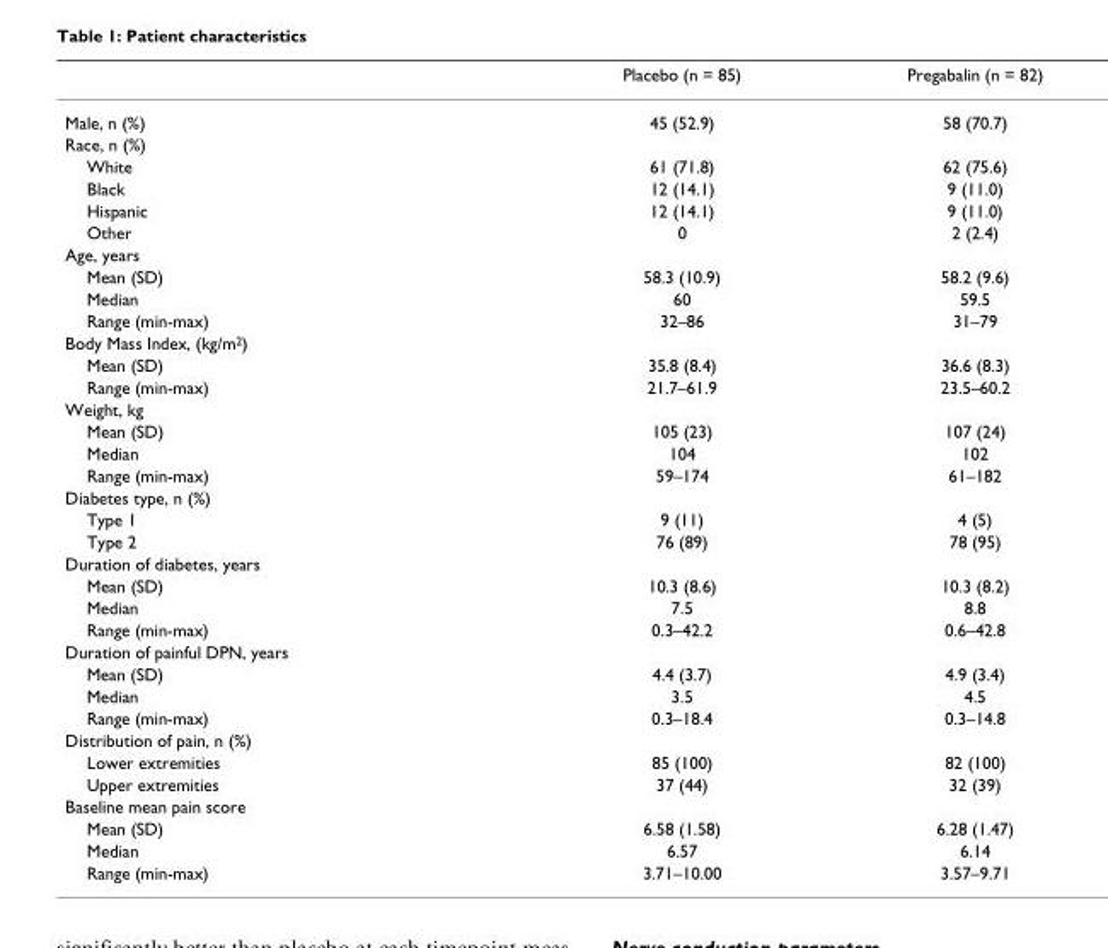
<table><thead><tr><td></td><td>Placebo (n = 85)</td><td>Pregabalin (n = 82)</td></tr></thead><tbody><tr><td>Male, n (%)</td><td>45 (52.9)</td><td>58 (70.7)</td></tr><tr><td colspan="3">Race, n (%)</td></tr><tr><td>White</td><td>61 (71.8)</td><td>62 (75.6)</td></tr><tr><td>Black</td><td>12 (14.1)</td><td>9 (11.0)</td></tr><tr><td>Hispanic</td><td>12 (14.1)</td><td>9 (11.0)</td></tr><tr><td>Other</td><td>0</td><td>2 (2.4)</td></tr><tr><td colspan="3">Age, years</td></tr><tr><td>Mean (SD)</td><td>58.3 (10.9)</td><td>58.2 (9.6)</td></tr><tr><td>Median</td><td>60</td><td>59.5</td></tr><tr><td>Range (min-max)</td><td>32–86</td><td>31–79</td></tr><tr><td colspan="3">Body Mass Index, (kg/m<sup>2</sup>)</td></tr><tr><td>Mean (SD)</td><td>35.8 (8.4)</td><td>36.6 (8.3)</td></tr><tr><td>Range (min-max)</td><td>21.7–61.9</td><td>23.5–60.2</td></tr><tr><td colspan="3">Weight, kg</td></tr><tr><td>Mean (SD)</td><td>105 (23)</td><td>107 (24)</td></tr><tr><td>Median</td><td>104</td><td>102</td></tr><tr><td>Range (min-max)</td><td>59–174</td><td>61–182</td></tr><tr><td colspan="3">Diabetes type, n (%)</td></tr><tr><td>Type 1</td><td>9 (11)</td><td>4 (5)</td></tr><tr><td>Type 2</td><td>76 (89)</td><td>78 (95)</td></tr><tr><td colspan="3">Duration of diabetes, years</td></tr><tr><td>Mean (SD)</td><td>10.3 (8.6)</td><td>10.3 (8.2)</td></tr><tr><td>Median</td><td>7.5</td><td>8.8</td></tr><tr><td>Range (min-max)</td><td>0.3–42.2</td><td>0.6–42.8</td></tr><tr><td colspan="3">Duration of painful DPN, years</td></tr><tr><td>Mean (SD)</td><td>4.4 (3.7)</td><td>4.9 (3.4)</td></tr><tr><td>Median</td><td>3.5</td><td>4.5</td></tr><tr><td>Range (min-max)</td><td>0.3–18.4</td><td>0.3–14.8</td></tr><tr><td colspan="3">Distribution of pain, n (%)</td></tr><tr><td>Lower extremities</td><td>85 (100)</td><td>82 (100)</td></tr><tr><td>Upper extremities</td><td>37 (44)</td><td>32 (39)</td></tr><tr><td colspan="3">Baseline mean pain score</td></tr><tr><td>Mean (SD)</td><td>6.58 (1.58)</td><td>6.28 (1.47)</td></tr><tr><td>Median</td><td>6.57</td><td>6.14</td></tr><tr><td>Range (min-max)</td><td>3.71–10.00</td><td>3.57–9.71</td></tr></tbody></table>